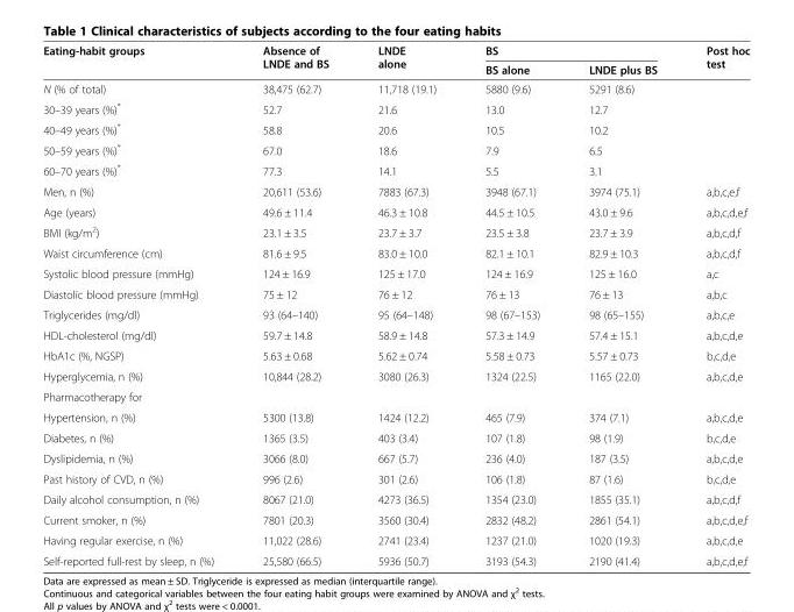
<table><thead><tr><td rowspan="2">Eating-habit groups</td><td rowspan="2">Absence of LNDE and BS</td><td rowspan="2">LNDE alone</td><td colspan="2">BS</td><td rowspan="2">Post hoc test</td></tr><tr><td>BS alone</td><td>LNDE plus BS</td></tr></thead><tbody><tr><td>N (% of total)</td><td>38,475 (62.7)</td><td>11,718 (19.1)</td><td>5880 (9.6)</td><td>5291 (8.6)</td><td></td></tr><tr><td>30–39 years (%)*</td><td>52.7</td><td>21.6</td><td>13.0</td><td>12.7</td><td></td></tr><tr><td>40–49 years (%)*</td><td>58.8</td><td>20.6</td><td>10.5</td><td>10.2</td><td></td></tr><tr><td>50–59 years (%)*</td><td>67.0</td><td>18.6</td><td>7.9</td><td>6.5</td><td></td></tr><tr><td>60–70 years (%)*</td><td>77.3</td><td>14.1</td><td>5.5</td><td>3.1</td><td></td></tr><tr><td>Men, n (%)</td><td>20,611 (53.6)</td><td>7883 (67.3)</td><td>3948 (67.1)</td><td>3974 (75.1)</td><td>a,b,c,e,f</td></tr><tr><td>Age (years)</td><td>49.6 ± 11.4</td><td>46.3 ± 10.8</td><td>44.5 ± 10.5</td><td>43.0 ± 9.6</td><td>a,b,c,d,e,f</td></tr><tr><td>BMI (kg/m<sup>2</sup>)</td><td>23.1 ± 3.5</td><td>23.7 ± 3.7</td><td>23.5 ± 3.8</td><td>23.7 ± 3.9</td><td>a,b,c,d,f</td></tr><tr><td>Waist circumference (cm)</td><td>81.6 ± 9.5</td><td>83.0 ± 10.0</td><td>82.1 ± 10.1</td><td>82.9 ± 10.3</td><td>a,b,c,d,f</td></tr><tr><td>Systolic blood pressure (mmHg)</td><td>124 ± 16.9</td><td>125 ± 17.0</td><td>124 ± 16.9</td><td>125 ± 16.0</td><td>a,c</td></tr><tr><td>Diastolic blood pressure (mmHg)</td><td>75 ± 12</td><td>76 ± 12</td><td>76 ± 13</td><td>76 ± 13</td><td>a,b,c</td></tr><tr><td>Triglycerides (mg/dl)</td><td>93 (64–140)</td><td>95 (64–148)</td><td>98 (67–153)</td><td>98 (65–155)</td><td>a,b,c,e</td></tr><tr><td>HDL-cholesterol (mg/dl)</td><td>59.7 ± 14.8</td><td>58.9 ± 14.8</td><td>57.3 ± 14.9</td><td>57.4 ± 15.1</td><td>a,b,c,d,e</td></tr><tr><td>HbA1c (%, NGSP)</td><td>5.63 ± 0.68</td><td>5.62 ± 0.74</td><td>5.58 ± 0.73</td><td>5.57 ± 0.73</td><td>b,c,d,e</td></tr><tr><td>Hyperglycemia, n (%)</td><td>10,844 (28.2)</td><td>3080 (26.3)</td><td>1324 (22.5)</td><td>1165 (22.0)</td><td>a,b,c,d,e</td></tr><tr><td colspan="6">Pharmacotherapy for</td></tr><tr><td>Hypertension, n (%)</td><td>5300 (13.8)</td><td>1424 (12.2)</td><td>465 (7.9)</td><td>374 (7.1)</td><td>a,b,c,d,e</td></tr><tr><td>Diabetes, n (%)</td><td>1365 (3.5)</td><td>403 (3.4)</td><td>107 (1.8)</td><td>98 (1.9)</td><td>b,c,d,e</td></tr><tr><td>Dyslipidemia, n (%)</td><td>3066 (8.0)</td><td>667 (5.7)</td><td>236 (4.0)</td><td>187 (3.5)</td><td>a,b,c,d,e</td></tr><tr><td>Past history of CVD, n (%)</td><td>996 (2.6)</td><td>301 (2.6)</td><td>106 (1.8)</td><td>87 (1.6)</td><td>b,c,d,e</td></tr><tr><td>Daily alcohol consumption, n (%)</td><td>8067 (21.0)</td><td>4273 (36.5)</td><td>1354 (23.0)</td><td>1855 (35.1)</td><td>a,b,c,d,f</td></tr><tr><td>Current smoker, n (%)</td><td>7801 (20.3)</td><td>3560 (30.4)</td><td>2832 (48.2)</td><td>2861 (54.1)</td><td>a,b,c,d,e,f</td></tr><tr><td>Having regular exercise, n (%)</td><td>11,022 (28.6)</td><td>2741 (23.4)</td><td>1237 (21.0)</td><td>1020 (19.3)</td><td>a,b,c,d,e</td></tr><tr><td>Self-reported full-rest by sleep, n (%)</td><td>25,580 (66.5)</td><td>5936 (50.7)</td><td>3193 (54.3)</td><td>2190 (41.4)</td><td>a,b,c,d,e,f</td></tr></tbody></table>